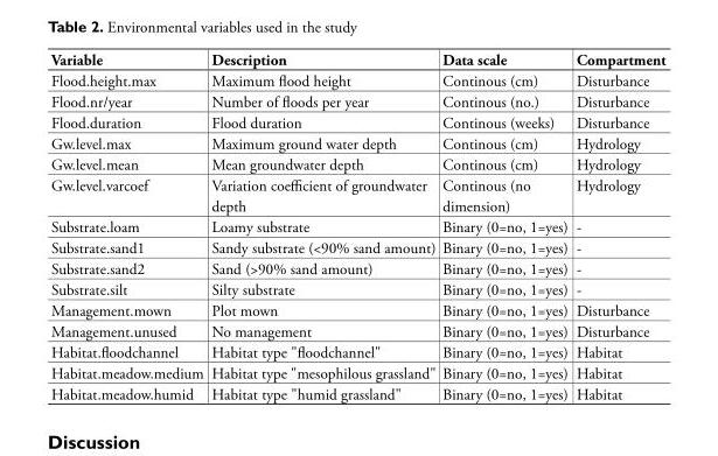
<table><thead><tr><td>Variable</td><td>Description</td><td>Data scale</td><td>Compartment</td></tr></thead><tbody><tr><td>Flood.height.max</td><td>Maximum flood height</td><td>Continous (cm)</td><td>Disturbance</td></tr><tr><td>Flood.nr/year</td><td>Number of floods per year</td><td>Continous (no.)</td><td>Disturbance</td></tr><tr><td>Flood.duration</td><td>Flood duration</td><td>Continous (weeks)</td><td>Disturbance</td></tr><tr><td>Gw.level.max</td><td>Maximum ground water depth</td><td>Continous (cm)</td><td>Hydrology</td></tr><tr><td>Gw.level.mean</td><td>Mean groundwater depth</td><td>Continous (cm)</td><td>Hydrology</td></tr><tr><td>Gw.level.varcoef</td><td>Variation coefficient of groundwater depth</td><td>Continous (no dimension)</td><td>Hydrology</td></tr><tr><td>Substrate.loam</td><td>Loamy substrate</td><td>Binary (0=no, 1=yes)</td><td>-</td></tr><tr><td>Substrate.sand1</td><td>Sandy substrate (&lt;90% sand amount)</td><td>Binary (0=no, 1=yes)</td><td>-</td></tr><tr><td>Substrate.sand2</td><td>Sand (&gt;90% sand amount)</td><td>Binary (0=no, 1=yes)</td><td>-</td></tr><tr><td>Substrate.silt</td><td>Silty substrate</td><td>Binary (0=no, 1=yes)</td><td>-</td></tr><tr><td>Management.mown</td><td>Plot mown</td><td>Binary (0=no, 1=yes)</td><td>Disturbance</td></tr><tr><td>Management.unused</td><td>No management</td><td>Binary (0=no, 1=yes)</td><td>Disturbance</td></tr><tr><td>Habitat.floodchannel</td><td>Habitat type &quot;floodchannel&quot;</td><td>Binary (0=no, 1=yes)</td><td>Habitat</td></tr><tr><td>Habitat.meadow.medium</td><td>Habitat type &quot;mesophilous grassland&quot;</td><td>Binary (0=no, 1=yes)</td><td>Habitat</td></tr><tr><td>Habitat.meadow.humid</td><td>Habitat type &quot;humid grassland&quot;</td><td>Binary (0=no, 1=yes)</td><td>Habitat</td></tr></tbody></table>